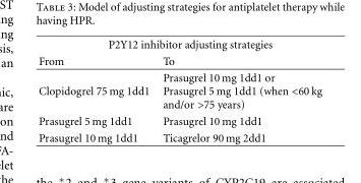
<table><thead><tr><td colspan="2">P2Y12 inhibitor adjusting strategies</td></tr><tr><td>From</td><td>To</td></tr></thead><tbody><tr><td>Clopidogrel 75 mg 1dd1</td><td>Prasugrel 10 mg 1dd1 or Prasugrel 5 mg 1dd1 (when &lt;60 kg and/or &gt;75 years)</td></tr><tr><td>Prasugrel 5 mg 1dd1</td><td>Prasugrel 10 mg 1dd1</td></tr><tr><td>Prasugrel 10 mg 1dd1</td><td>Ticagrelor 90 mg 2dd1</td></tr></tbody></table>